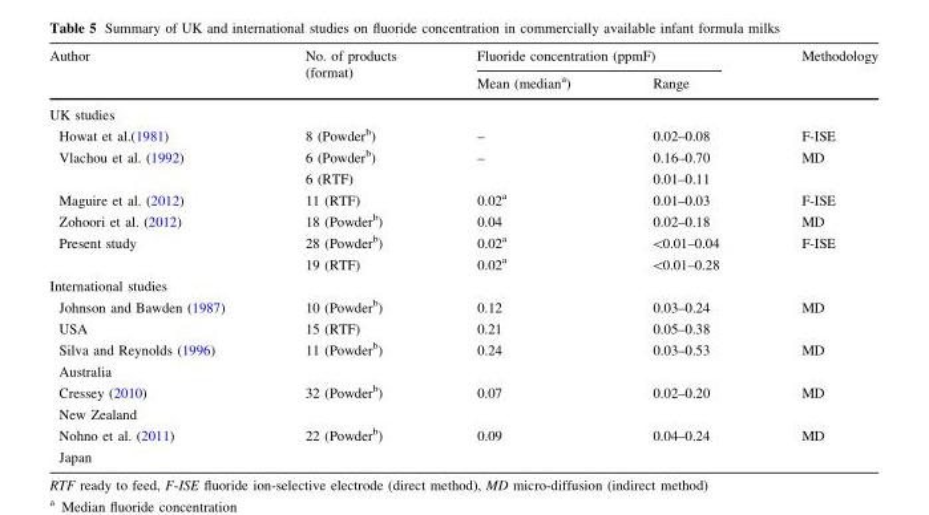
<table><thead><tr><td rowspan="2">Author</td><td rowspan="2">No. of products (format)</td><td colspan="2">Fluoride concentration (ppmF)</td><td rowspan="2">Methodology</td></tr><tr><td>Mean (median<sup>a</sup>)</td><td>Range</td></tr></thead><tbody><tr><td colspan="5">UK studies</td></tr><tr><td>Howat et al.(1981)</td><td>8 (Powder<sup>b</sup>)</td><td>–</td><td>0.02–0.08</td><td>F-ISE</td></tr><tr><td>Vlachou et al. (1992)</td><td>6 (Powder<sup>b</sup>) 6 (RTF)</td><td>–</td><td>0.16–0.70 0.01–0.11</td><td>MD</td></tr><tr><td>Maguire et al. (2012)</td><td>11 (RTF)</td><td>0.02<sup>a</sup></td><td>0.01–0.03</td><td>F-ISE</td></tr><tr><td>Zohoori et al. (2012)</td><td>18 (Powder<sup>b</sup>)</td><td>0.04</td><td>0.02–0.18</td><td>MD</td></tr><tr><td>Present study</td><td>28 (Powder<sup>b</sup>) 19 (RTF)</td><td>0.02<sup>a</sup> 0.02<sup>a</sup></td><td>&lt;0.01–0.04 &lt;0.01–0.28</td><td>F-ISE</td></tr><tr><td colspan="5">International studies</td></tr><tr><td>Johnson and Bawden (1987) USA</td><td>10 (Powder<sup>b</sup>) 15 (RTF)</td><td>0.12 0.21</td><td>0.03–0.24 0.05–0.38</td><td>MD</td></tr><tr><td>Silva and Reynolds (1996) Australia</td><td>11 (Powder<sup>b</sup>)</td><td>0.24</td><td>0.03–0.53</td><td>MD</td></tr><tr><td>Cressey (2010) New Zealand</td><td>32 (Powder<sup>b</sup>)</td><td>0.07</td><td>0.02–0.20</td><td>MD</td></tr><tr><td>Nohno et al. (2011) Japan</td><td>22 (Powder<sup>b</sup>)</td><td>0.09</td><td>0.04–0.24</td><td>MD</td></tr></tbody></table>